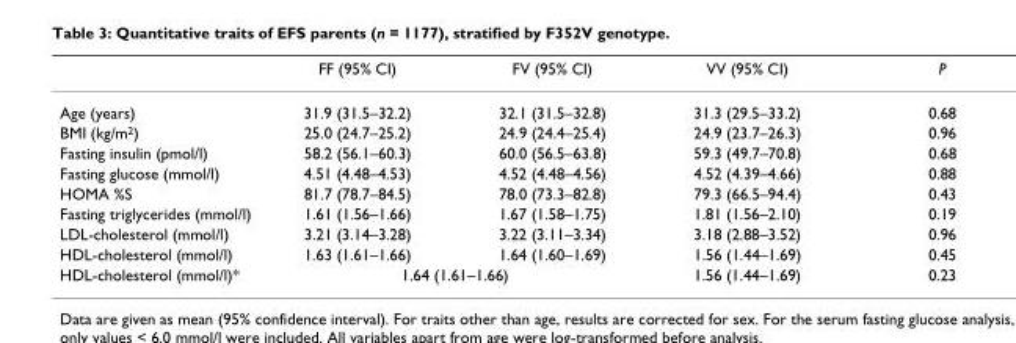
<table><thead><tr><td></td><td>FF (95% CI)</td><td>FV (95% CI)</td><td>VV (95% CI)</td><td>P</td></tr></thead><tbody><tr><td>Age (years)</td><td>31.9 (31.5–32.2)</td><td>32.1 (31.5–32.8)</td><td>31.3 (29.5–33.2)</td><td>0.68</td></tr><tr><td>BMI (kg/m<sup>2</sup>)</td><td>25.0 (24.7–25.2)</td><td>24.9 (24.4–25.4)</td><td>24.9 (23.7–26.3)</td><td>0.96</td></tr><tr><td>Fasting insulin (pmol/l)</td><td>58.2 (56.1–60.3)</td><td>60.0 (56.5–63.8)</td><td>59.3 (49.7–70.8)</td><td>0.68</td></tr><tr><td>Fasting glucose (mmol/l)</td><td>4.51 (4.48–4.53)</td><td>4.52 (4.48–4.56)</td><td>4.52 (4.39–4.66)</td><td>0.88</td></tr><tr><td>HOMA %S</td><td>81.7 (78.7–84.5)</td><td>78.0 (73.3–82.8)</td><td>79.3 (66.5–94.4)</td><td>0.43</td></tr><tr><td>Fasting triglycerides (mmol/l)</td><td>1.61 (1.56–1.66)</td><td>1.67 (1.58–1.75)</td><td>1.81 (1.56–2.10)</td><td>0.19</td></tr><tr><td>LDL-cholesterol (mmol/l)</td><td>3.21 (3.14–3.28)</td><td>3.22 (3.11–3.34)</td><td>3.18 (2.88–3.52)</td><td>0.96</td></tr><tr><td>HDL-cholesterol (mmol/l)</td><td>1.63 (1.61–1.66)</td><td>1.64 (1.60–1.69)</td><td>1.56 (1.44–1.69)</td><td>0.45</td></tr><tr><td>HDL-cholesterol (mmol/l)*</td><td colspan="2">1.64 (1.61–1.66)</td><td>1.56 (1.44–1.69)</td><td>0.23</td></tr></tbody></table>